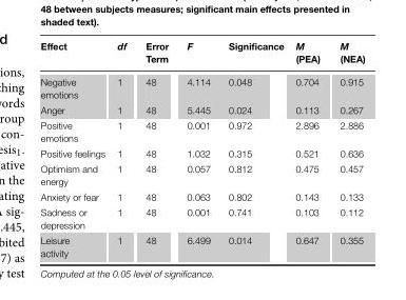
<table><thead><tr><td>Effect</td><td>df</td><td>Error Term</td><td>F</td><td>Significance</td><td>M (PEA)</td><td>M (NEA)</td></tr></thead><tbody><tr><td>Negative emotions</td><td>1</td><td>48</td><td>4.114</td><td>0.048</td><td>0.704</td><td>0.915</td></tr><tr><td>Anger</td><td>1</td><td>48</td><td>5.445</td><td>0.024</td><td>0.113</td><td>0.267</td></tr><tr><td>Positive emotions</td><td>1</td><td>48</td><td>0.001</td><td>0.972</td><td>2.896</td><td>2.886</td></tr><tr><td>Positive feelings</td><td>1</td><td>48</td><td>1.032</td><td>0.315</td><td>0.521</td><td>0.636</td></tr><tr><td>Optimism and energy</td><td>1</td><td>48</td><td>0.057</td><td>0.812</td><td>0.475</td><td>0.457</td></tr><tr><td>Anxiety or fear</td><td>1</td><td>48</td><td>0.063</td><td>0.802</td><td>0.143</td><td>0.133</td></tr><tr><td>Sadness or depression</td><td>1</td><td>48</td><td>0.001</td><td>0.741</td><td>0.103</td><td>0.112</td></tr><tr><td>Leisure activity</td><td>1</td><td>48</td><td>6.499</td><td>0.014</td><td>0.647</td><td>0.355</td></tr></tbody></table>